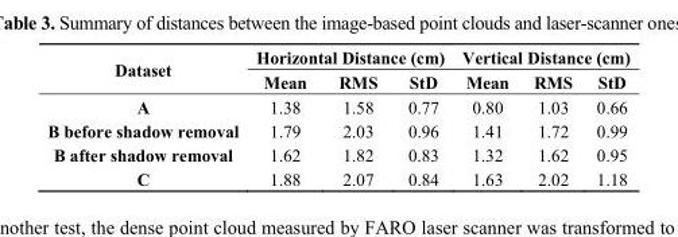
<table><thead><tr><td rowspan="2">Dataset</td><td colspan="3">Horizontal Distance (cm)</td><td colspan="3">Vertical Distance (cm)</td></tr><tr><td>Mean</td><td>RMS</td><td>StD</td><td>Mean</td><td>RMS</td><td>StD</td></tr></thead><tbody><tr><td>A</td><td>1.38</td><td>1.58</td><td>0.77</td><td>0.80</td><td>1.03</td><td>0.66</td></tr><tr><td>B before shadow removal</td><td>1.79</td><td>2.03</td><td>0.96</td><td>1.41</td><td>1.72</td><td>0.99</td></tr><tr><td>B after shadow removal</td><td>1.62</td><td>1.82</td><td>0.83</td><td>1.32</td><td>1.62</td><td>0.95</td></tr><tr><td>C</td><td>1.88</td><td>2.07</td><td>0.84</td><td>1.63</td><td>2.02</td><td>1.18</td></tr></tbody></table>